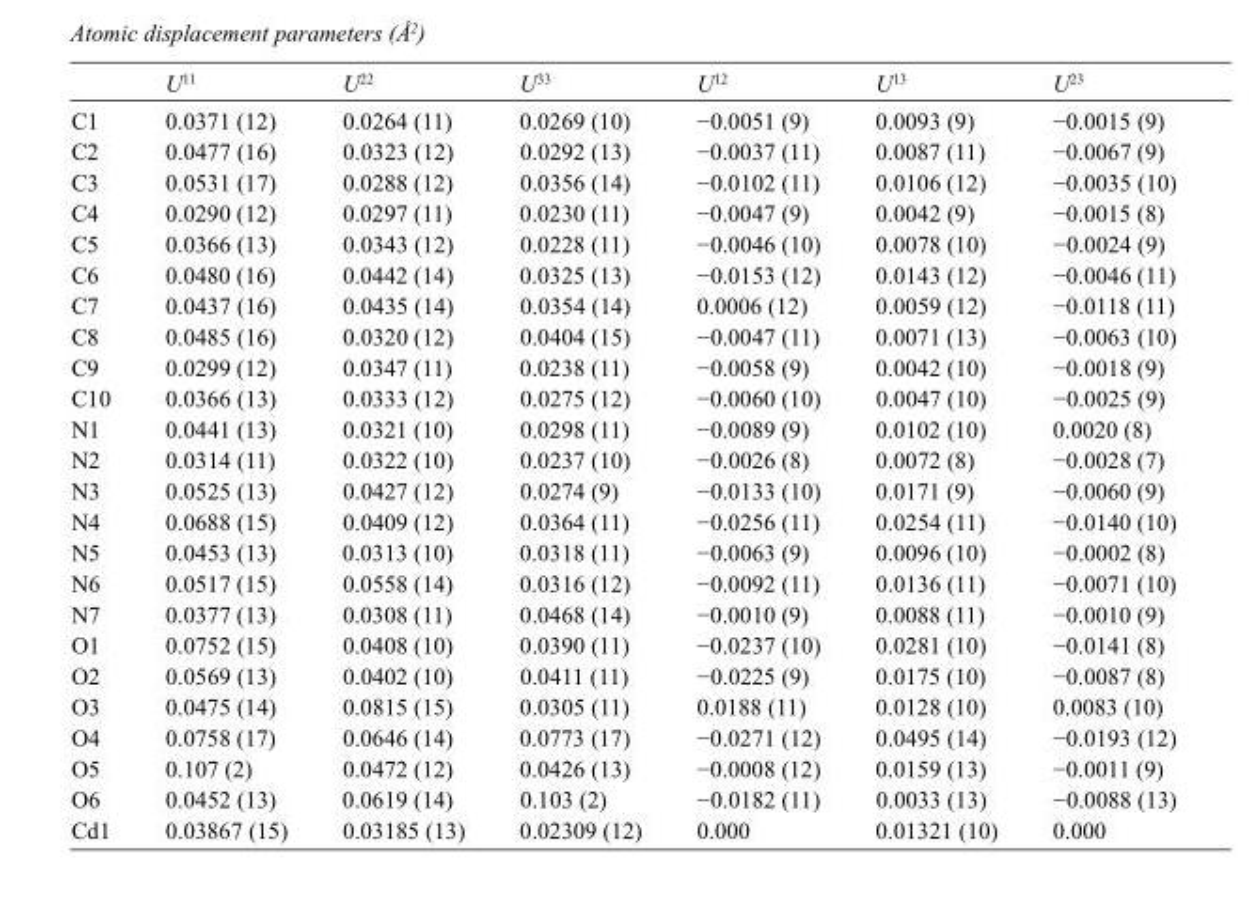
<table><thead><tr><td></td><td>U<sup>11</sup></td><td>U<sup>22</sup></td><td>U<sup>33</sup></td><td>U<sup>12</sup></td><td>U<sup>13</sup></td><td>U<sup>23</sup></td></tr></thead><tbody><tr><td>C1</td><td>0.0371 (12)</td><td>0.0264 (11)</td><td>0.0269 (10)</td><td>−0.0051 (9)</td><td>0.0093 (9)</td><td>−0.0015 (9)</td></tr><tr><td>C2</td><td>0.0477 (16)</td><td>0.0323 (12)</td><td>0.0292 (13)</td><td>−0.0037 (11)</td><td>0.0087 (11)</td><td>−0.0067 (9)</td></tr><tr><td>C3</td><td>0.0531 (17)</td><td>0.0288 (12)</td><td>0.0356 (14)</td><td>−0.0102 (11)</td><td>0.0106 (12)</td><td>−0.0035 (10)</td></tr><tr><td>C4</td><td>0.0290 (12)</td><td>0.0297 (11)</td><td>0.0230 (11)</td><td>−0.0047 (9)</td><td>0.0042 (9)</td><td>−0.0015 (8)</td></tr><tr><td>C5</td><td>0.0366 (13)</td><td>0.0343 (12)</td><td>0.0228 (11)</td><td>−0.0046 (10)</td><td>0.0078 (10)</td><td>−0.0024 (9)</td></tr><tr><td>C6</td><td>0.0480 (16)</td><td>0.0442 (14)</td><td>0.0325 (13)</td><td>−0.0153 (12)</td><td>0.0143 (12)</td><td>−0.0046 (11)</td></tr><tr><td>C7</td><td>0.0437 (16)</td><td>0.0435 (14)</td><td>0.0354 (14)</td><td>0.0006 (12)</td><td>0.0059 (12)</td><td>−0.0118 (11)</td></tr><tr><td>C8</td><td>0.0485 (16)</td><td>0.0320 (12)</td><td>0.0404 (15)</td><td>−0.0047 (11)</td><td>0.0071 (13)</td><td>−0.0063 (10)</td></tr><tr><td>C9</td><td>0.0299 (12)</td><td>0.0347 (11)</td><td>0.0238 (11)</td><td>−0.0058 (9)</td><td>0.0042 (10)</td><td>−0.0018 (9)</td></tr><tr><td>C10</td><td>0.0366 (13)</td><td>0.0333 (12)</td><td>0.0275 (12)</td><td>−0.0060 (10)</td><td>0.0047 (10)</td><td>−0.0025 (9)</td></tr><tr><td>N1</td><td>0.0441 (13)</td><td>0.0321 (10)</td><td>0.0298 (11)</td><td>−0.0089 (9)</td><td>0.0102 (10)</td><td>0.0020 (8)</td></tr><tr><td>N2</td><td>0.0314 (11)</td><td>0.0322 (10)</td><td>0.0237 (10)</td><td>−0.0026 (8)</td><td>0.0072 (8)</td><td>−0.0028 (7)</td></tr><tr><td>N3</td><td>0.0525 (13)</td><td>0.0427 (12)</td><td>0.0274 (9)</td><td>−0.0133 (10)</td><td>0.0171 (9)</td><td>−0.0060 (9)</td></tr><tr><td>N4</td><td>0.0688 (15)</td><td>0.0409 (12)</td><td>0.0364 (11)</td><td>−0.0256 (11)</td><td>0.0254 (11)</td><td>−0.0140 (10)</td></tr><tr><td>N5</td><td>0.0453 (13)</td><td>0.0313 (10)</td><td>0.0318 (11)</td><td>−0.0063 (9)</td><td>0.0096 (10)</td><td>−0.0002 (8)</td></tr><tr><td>N6</td><td>0.0517 (15)</td><td>0.0558 (14)</td><td>0.0316 (12)</td><td>−0.0092 (11)</td><td>0.0136 (11)</td><td>−0.0071 (10)</td></tr><tr><td>N7</td><td>0.0377 (13)</td><td>0.0308 (11)</td><td>0.0468 (14)</td><td>−0.0010 (9)</td><td>0.0088 (11)</td><td>−0.0010 (9)</td></tr><tr><td>O1</td><td>0.0752 (15)</td><td>0.0408 (10)</td><td>0.0390 (11)</td><td>−0.0237 (10)</td><td>0.0281 (10)</td><td>−0.0141 (8)</td></tr><tr><td>O2</td><td>0.0569 (13)</td><td>0.0402 (10)</td><td>0.0411 (11)</td><td>−0.0225 (9)</td><td>0.0175 (10)</td><td>−0.0087 (8)</td></tr><tr><td>O3</td><td>0.0475 (14)</td><td>0.0815 (15)</td><td>0.0305 (11)</td><td>0.0188 (11)</td><td>0.0128 (10)</td><td>0.0083 (10)</td></tr><tr><td>O4</td><td>0.0758 (17)</td><td>0.0646 (14)</td><td>0.0773 (17)</td><td>−0.0271 (12)</td><td>0.0495 (14)</td><td>−0.0193 (12)</td></tr><tr><td>O5</td><td>0.107 (2)</td><td>0.0472 (12)</td><td>0.0426 (13)</td><td>−0.0008 (12)</td><td>0.0159 (13)</td><td>−0.0011 (9)</td></tr><tr><td>O6</td><td>0.0452 (13)</td><td>0.0619 (14)</td><td>0.103 (2)</td><td>−0.0182 (11)</td><td>0.0033 (13)</td><td>−0.0088 (13)</td></tr><tr><td>Cd1</td><td>0.03867 (15)</td><td>0.03185 (13)</td><td>0.02309 (12)</td><td>0.000</td><td>0.01321 (10)</td><td>0.000</td></tr></tbody></table>